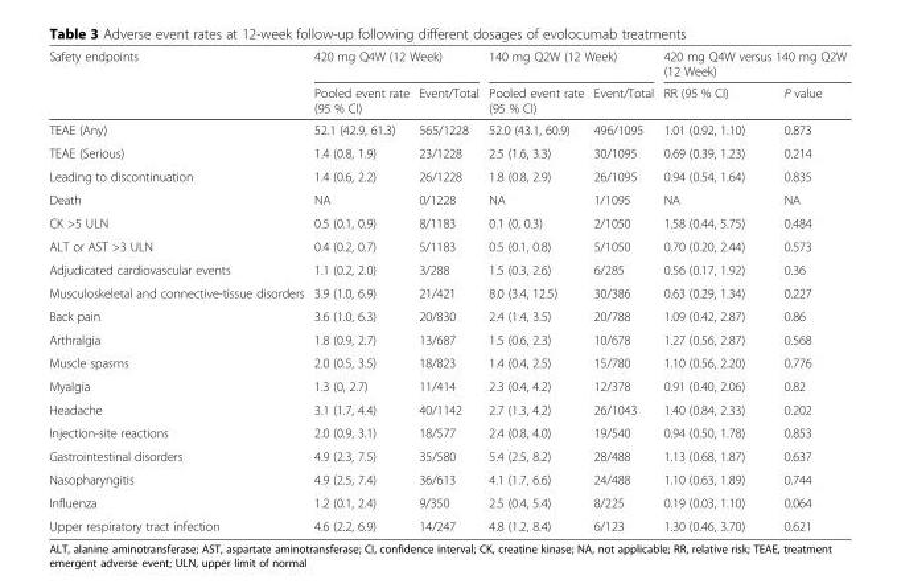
<table><thead><tr><td rowspan="2">Safety endpoints</td><td colspan="2">420 mg Q4W (12 Week)</td><td colspan="2">140 mg Q2W (12 Week)</td><td colspan="2">420 mg Q4W versus 140 mg Q2W (12 Week)</td></tr><tr><td>Pooled event rate (95 % CI)</td><td>Event/Total</td><td>Pooled event rate (95 % CI)</td><td>Event/Total</td><td>RR (95 % CI)</td><td>P value</td></tr></thead><tbody><tr><td>TEAE (Any)</td><td>52.1 (42.9, 61.3)</td><td>565/1228</td><td>52.0 (43.1, 60.9)</td><td>496/1095</td><td>1.01 (0.92, 1.10)</td><td>0.873</td></tr><tr><td>TEAE (Serious)</td><td>1.4 (0.8, 1.9)</td><td>23/1228</td><td>2.5 (1.6, 3.3)</td><td>30/1095</td><td>0.69 (0.39, 1.23)</td><td>0.214</td></tr><tr><td>Leading to discontinuation</td><td>1.4 (0.6, 2.2)</td><td>26/1228</td><td>1.8 (0.8, 2.9)</td><td>26/1095</td><td>0.94 (0.54, 1.64)</td><td>0.835</td></tr><tr><td>Death</td><td>NA</td><td>0/1228</td><td>NA</td><td>1/1095</td><td>NA</td><td>NA</td></tr><tr><td>CK &gt;5 ULN</td><td>0.5 (0.1, 0.9)</td><td>8/1183</td><td>0.1 (0, 0.3)</td><td>2/1050</td><td>1.58 (0.44, 5.75)</td><td>0.484</td></tr><tr><td>ALT or AST &gt;3 ULN</td><td>0.4 (0.2, 0.7)</td><td>5/1183</td><td>0.5 (0.1, 0.8)</td><td>5/1050</td><td>0.70 (0.20, 2.44)</td><td>0.573</td></tr><tr><td>Adjudicated cardiovascular events</td><td>1.1 (0.2, 2.0)</td><td>3/288</td><td>1.5 (0.3, 2.6)</td><td>6/285</td><td>0.56 (0.17, 1.92)</td><td>0.36</td></tr><tr><td>Musculoskeletal and connective-tissue disorders</td><td>3.9 (1.0, 6.9)</td><td>21/421</td><td>8.0 (3.4, 12.5)</td><td>30/386</td><td>0.63 (0.29, 1.34)</td><td>0.227</td></tr><tr><td>Back pain</td><td>3.6 (1.0, 6.3)</td><td>20/830</td><td>2.4 (1.4, 3.5)</td><td>20/788</td><td>1.09 (0.42, 2.87)</td><td>0.86</td></tr><tr><td>Arthralgia</td><td>1.8 (0.9, 2.7)</td><td>13/687</td><td>1.5 (0.6, 2.3)</td><td>10/678</td><td>1.27 (0.56, 2.87)</td><td>0.568</td></tr><tr><td>Muscle spasms</td><td>2.0 (0.5, 3.5)</td><td>18/823</td><td>1.4 (0.4, 2.5)</td><td>15/780</td><td>1.10 (0.56, 2.20)</td><td>0.776</td></tr><tr><td>Myalgia</td><td>1.3 (0, 2.7)</td><td>11/414</td><td>2.3 (0.4, 4.2)</td><td>12/378</td><td>0.91 (0.40, 2.06)</td><td>0.82</td></tr><tr><td>Headache</td><td>3.1 (1.7, 4.4)</td><td>40/1142</td><td>2.7 (1.3, 4.2)</td><td>26/1043</td><td>1.40 (0.84, 2.33)</td><td>0.202</td></tr><tr><td>Injection-site reactions</td><td>2.0 (0.9, 3.1)</td><td>18/577</td><td>2.4 (0.8, 4.0)</td><td>19/540</td><td>0.94 (0.50, 1.78)</td><td>0.853</td></tr><tr><td>Gastrointestinal disorders</td><td>4.9 (2.3, 7.5)</td><td>35/580</td><td>5.4 (2.5, 8.2)</td><td>28/488</td><td>1.13 (0.68, 1.87)</td><td>0.637</td></tr><tr><td>Nasopharyngitis</td><td>4.9 (2.5, 7.4)</td><td>36/613</td><td>4.1 (1.7, 6.6)</td><td>24/488</td><td>1.10 (0.63, 1.89)</td><td>0.744</td></tr><tr><td>Influenza</td><td>1.2 (0.1, 2.4)</td><td>9/350</td><td>2.5 (0.4, 5.4)</td><td>8/225</td><td>0.19 (0.03, 1.10)</td><td>0.064</td></tr><tr><td>Upper respiratory tract infection</td><td>4.6 (2.2, 6.9)</td><td>14/247</td><td>4.8 (1.2, 8.4)</td><td>6/123</td><td>1.30 (0.46, 3.70)</td><td>0.621</td></tr></tbody></table>